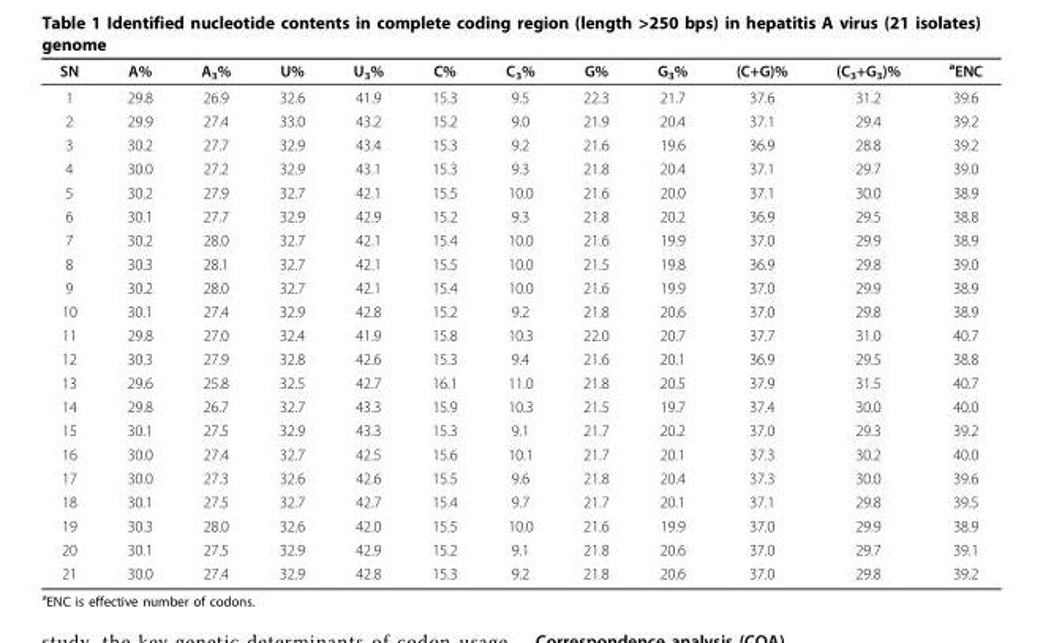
<table><thead><tr><td>SN</td><td>A%</td><td>A<sub>3</sub>%</td><td>U%</td><td>U<sub>3</sub>%</td><td>C%</td><td>C<sub>3</sub>%</td><td>G%</td><td>G<sub>3</sub>%</td><td>(C+G)%</td><td>(C<sub>3</sub>+G<sub>3</sub>)%</td><td><sup>a</sup>ENC</td></tr></thead><tbody><tr><td>1</td><td>29.8</td><td>26.9</td><td>32.6</td><td>41.9</td><td>15.3</td><td>9.5</td><td>22.3</td><td>21.7</td><td>37.6</td><td>31.2</td><td>39.6</td></tr><tr><td>2</td><td>29.9</td><td>27.4</td><td>33.0</td><td>43.2</td><td>15.2</td><td>9.0</td><td>21.9</td><td>20.4</td><td>37.1</td><td>29.4</td><td>39.2</td></tr><tr><td>3</td><td>30.2</td><td>27.7</td><td>32.9</td><td>43.4</td><td>15.3</td><td>9.2</td><td>21.6</td><td>19.6</td><td>36.9</td><td>28.8</td><td>39.2</td></tr><tr><td>4</td><td>30.0</td><td>27.2</td><td>32.9</td><td>43.1</td><td>15.3</td><td>9.3</td><td>21.8</td><td>20.4</td><td>37.1</td><td>29.7</td><td>39.0</td></tr><tr><td>5</td><td>30.2</td><td>27.9</td><td>32.7</td><td>42.1</td><td>15.5</td><td>10.0</td><td>21.6</td><td>20.0</td><td>37.1</td><td>30.0</td><td>38.9</td></tr><tr><td>6</td><td>30.1</td><td>27.7</td><td>32.9</td><td>42.9</td><td>15.2</td><td>9.3</td><td>21.8</td><td>20.2</td><td>36.9</td><td>29.5</td><td>38.8</td></tr><tr><td>7</td><td>30.2</td><td>28.0</td><td>32.7</td><td>42.1</td><td>15.4</td><td>10.0</td><td>21.6</td><td>19.9</td><td>37.0</td><td>29.9</td><td>38.9</td></tr><tr><td>8</td><td>30.3</td><td>28.1</td><td>32.7</td><td>42.1</td><td>15.5</td><td>10.0</td><td>21.5</td><td>19.8</td><td>36.9</td><td>29.8</td><td>39.0</td></tr><tr><td>9</td><td>30.2</td><td>28.0</td><td>32.7</td><td>42.1</td><td>15.4</td><td>10.0</td><td>21.6</td><td>19.9</td><td>37.0</td><td>29.9</td><td>38.9</td></tr><tr><td>10</td><td>30.1</td><td>27.4</td><td>32.9</td><td>42.8</td><td>15.2</td><td>9.2</td><td>21.8</td><td>20.6</td><td>37.0</td><td>29.8</td><td>38.9</td></tr><tr><td>11</td><td>29.8</td><td>27.0</td><td>32.4</td><td>41.9</td><td>15.8</td><td>10.3</td><td>22.0</td><td>20.7</td><td>37.7</td><td>31.0</td><td>40.7</td></tr><tr><td>12</td><td>30.3</td><td>27.9</td><td>32.8</td><td>42.6</td><td>15.3</td><td>9.4</td><td>21.6</td><td>20.1</td><td>36.9</td><td>29.5</td><td>38.8</td></tr><tr><td>13</td><td>29.6</td><td>25.8</td><td>32.5</td><td>42.7</td><td>16.1</td><td>11.0</td><td>21.8</td><td>20.5</td><td>37.9</td><td>31.5</td><td>40.7</td></tr><tr><td>14</td><td>29.8</td><td>26.7</td><td>32.7</td><td>43.3</td><td>15.9</td><td>10.3</td><td>21.5</td><td>19.7</td><td>37.4</td><td>30.0</td><td>40.0</td></tr><tr><td>15</td><td>30.1</td><td>27.5</td><td>32.9</td><td>43.3</td><td>15.3</td><td>9.1</td><td>21.7</td><td>20.2</td><td>37.0</td><td>29.3</td><td>39.2</td></tr><tr><td>16</td><td>30.0</td><td>27.4</td><td>32.7</td><td>42.5</td><td>15.6</td><td>10.1</td><td>21.7</td><td>20.1</td><td>37.3</td><td>30.2</td><td>40.0</td></tr><tr><td>17</td><td>30.0</td><td>27.3</td><td>32.6</td><td>42.6</td><td>15.5</td><td>9.6</td><td>21.8</td><td>20.4</td><td>37.3</td><td>30.0</td><td>39.6</td></tr><tr><td>18</td><td>30.1</td><td>27.5</td><td>32.7</td><td>42.7</td><td>15.4</td><td>9.7</td><td>21.7</td><td>20.1</td><td>37.1</td><td>29.8</td><td>39.5</td></tr><tr><td>19</td><td>30.3</td><td>28.0</td><td>32.6</td><td>42.0</td><td>15.5</td><td>10.0</td><td>21.6</td><td>19.9</td><td>37.0</td><td>29.9</td><td>38.9</td></tr><tr><td>20</td><td>30.1</td><td>27.5</td><td>32.9</td><td>42.9</td><td>15.2</td><td>9.1</td><td>21.8</td><td>20.6</td><td>37.0</td><td>29.7</td><td>39.1</td></tr><tr><td>21</td><td>30.0</td><td>27.4</td><td>32.9</td><td>42.8</td><td>15.3</td><td>9.2</td><td>21.8</td><td>20.6</td><td>37.0</td><td>29.8</td><td>39.2</td></tr></tbody></table>